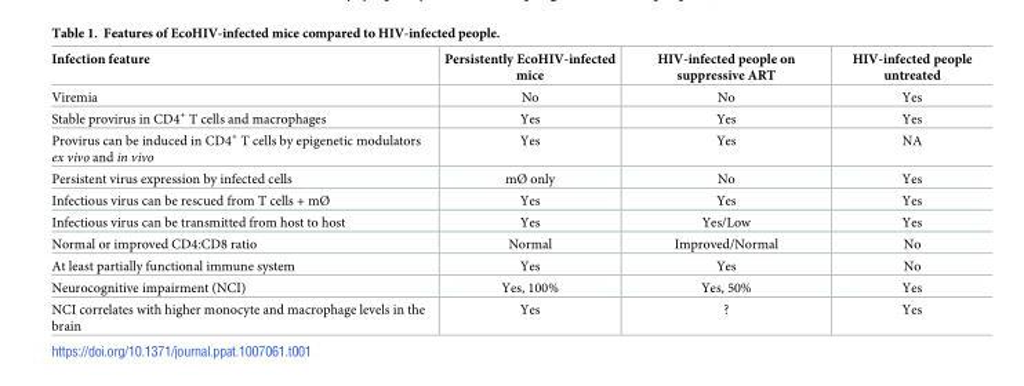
<table><thead><tr><td>Infection feature</td><td>Persistently EcoHIV-infected mice</td><td>HIV-infected people on suppressive ART</td><td>HIV-infected people untreated</td></tr></thead><tbody><tr><td>Viremia</td><td>No</td><td>No</td><td>Yes</td></tr><tr><td>Stable provirus in CD4<sup>+</sup> T cells and macrophages</td><td>Yes</td><td>Yes</td><td>Yes</td></tr><tr><td>Provirus can be induced in CD4<sup>+</sup> T cells by epigenetic modulators ex vivo and in vivo</td><td>Yes</td><td>Yes</td><td>NA</td></tr><tr><td>Persistent virus expression by infected cells</td><td>mØ only</td><td>No</td><td>Yes</td></tr><tr><td>Infectious virus can be rescued from T cells + mØ</td><td>Yes</td><td>Yes</td><td>Yes</td></tr><tr><td>Infectious virus can be transmitted from host to host</td><td>Yes</td><td>Yes/Low</td><td>Yes</td></tr><tr><td>Normal or improved CD4:CD8 ratio</td><td>Normal</td><td>Improved/Normal</td><td>No</td></tr><tr><td>At least partially functional immune system</td><td>Yes</td><td>Yes</td><td>No</td></tr><tr><td>Neurocognitive impairment (NCI)</td><td>Yes, 100%</td><td>Yes, 50%</td><td>Yes</td></tr><tr><td>NCI correlates with higher monocyte and macrophage levels in the brain</td><td>Yes</td><td>?</td><td>Yes</td></tr></tbody></table>